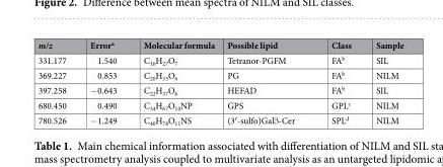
<table><thead><tr><td>m/z</td><td>Error<sup>a</sup></td><td>Molecular formula</td><td>Possible lipid</td><td>Class</td><td>Sample</td></tr></thead><tbody><tr><td>331.177</td><td>1.540</td><td>C<sub>16</sub>H<sub>27</sub>O<sub>7</sub></td><td>Tetranor-PGFM</td><td>FA<sup>b</sup></td><td>SIL</td></tr><tr><td>369.227</td><td>0.853</td><td>C<sub>20</sub>H<sub>33</sub>O<sub>6</sub></td><td>PG</td><td>FA<sup>b</sup></td><td>NILM</td></tr><tr><td>397.258</td><td>−0.643</td><td>C<sub>22</sub>H<sub>37</sub>O<sub>6</sub></td><td>HEFAD</td><td>FA<sup>b</sup></td><td>SIL</td></tr><tr><td>680.450</td><td>0.490</td><td>C<sub>34</sub>H<sub>67</sub>O<sub>10</sub>NP</td><td>GPS</td><td>GPL<sup>c</sup></td><td>NILM</td></tr><tr><td>780.526</td><td>−1.249</td><td>C<sub>40</sub>H<sub>78</sub>O<sub>11</sub>NS</td><td>(3′-sulfo)Galβ-Cer</td><td>SPL<sup>d</sup></td><td>NILM</td></tr></tbody></table>